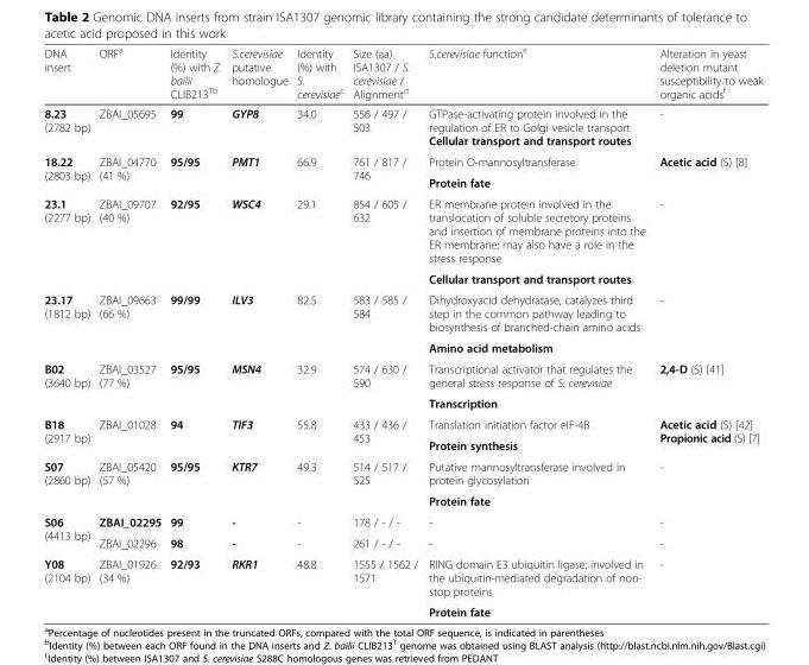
<table><thead><tr><td>DNA insert</td><td>ORF<sup>a</sup></td><td>Identity (%) with Z. bailii CLIB213<sup>Tb</sup></td><td>S.cerevisiae putative homologue</td><td>Identity (%) with S. cerevisiae<sup>c</sup></td><td>Size (aa) ISA1307 / S. cerevisiae / Alignment<sup>d</sup></td><td>S.cerevisiae function<sup>e</sup></td><td>Alteration in yeast deletion mutant susceptibility to weak organic acids<sup>f</sup></td></tr></thead><tbody><tr><td>8.23 (2782 bp)</td><td>ZBAI_05695</td><td>99</td><td>GYP8</td><td>34.0</td><td>556 / 497 / 503</td><td>GTPase-activating protein involved in the regulation of ER to Golgi vesicle transport Cellular transport and transport routes</td><td>-</td></tr><tr><td rowspan="2">18.22 (2803 bp)</td><td rowspan="2">ZBAI_04770 (41 %)</td><td rowspan="2">95/95</td><td rowspan="2">PMT1</td><td rowspan="2">66.9</td><td rowspan="2">761 / 817 / 746</td><td>Protein O-mannosyltransferase</td><td rowspan="2">Acetic acid (S) [8]</td></tr><tr><td>Protein fate</td></tr><tr><td rowspan="2">23.1 (2277 bp)</td><td rowspan="2">ZBAI_09707 (40 %)</td><td rowspan="2">92/95</td><td rowspan="2">WSC4</td><td rowspan="2">29.1</td><td rowspan="2">854 / 605 / 632</td><td>ER membrane protein involved in the translocation of soluble secretory proteins and insertion of membrane proteins into the ER membrane; may also have a role in the stress response</td><td rowspan="2">-</td></tr><tr><td>Cellular transport and transport routes</td></tr><tr><td rowspan="2">23.17 (1812 bp)</td><td rowspan="2">ZBAI_09663 (66 %)</td><td rowspan="2">99/99</td><td rowspan="2">ILV3</td><td rowspan="2">82.5</td><td rowspan="2">583 / 585 / 584</td><td>Dihydroxyacid dehydratase, catalyzes third step in the common pathway leading to biosynthesis of branched-chain amino acids</td><td rowspan="2">-</td></tr><tr><td>Amino acid metabolism</td></tr><tr><td rowspan="2">B02 (3640 bp)</td><td rowspan="2">ZBAI_03527 (77 %)</td><td rowspan="2">95/95</td><td rowspan="2">MSN4</td><td rowspan="2">32.9</td><td rowspan="2">574 / 630 / 590</td><td>Transcriptional activator that regulates the general stress response of S. cerevisiae</td><td rowspan="2">2,4-D (S) [41]</td></tr><tr><td>Transcription</td></tr><tr><td rowspan="2">B18 (2917 bp)</td><td rowspan="2">ZBAI_01028</td><td rowspan="2">94</td><td rowspan="2">TIF3</td><td rowspan="2">55.8</td><td rowspan="2">433 / 436 / 453</td><td>Translation initiation factor eIF-4B</td><td rowspan="2">Acetic acid (S) [42] Propionic acid (S) [7]</td></tr><tr><td>Protein synthesis</td></tr><tr><td rowspan="2">S07 (2860 bp)</td><td rowspan="2">ZBAI_05420 (57 %)</td><td rowspan="2">95/95</td><td rowspan="2">KTR7</td><td rowspan="2">49.3</td><td rowspan="2">514 / 517 / 525</td><td>Putative mannosyltransferase involved in protein glycosylation</td><td rowspan="2">-</td></tr><tr><td>Protein fate</td></tr><tr><td rowspan="2">S06 (4413 bp)</td><td>ZBAI_02295</td><td>99</td><td>-</td><td>-</td><td>178 / - / -</td><td>-</td><td>-</td></tr><tr><td>ZBAI_02296</td><td>98</td><td>-</td><td>-</td><td>261 / - / -</td><td>-</td><td>-</td></tr><tr><td rowspan="2">Y08 (2104 bp)</td><td rowspan="2">ZBAI_01926 (34 %)</td><td rowspan="2">92/93</td><td rowspan="2">RKR1</td><td rowspan="2">48.8</td><td rowspan="2">1555 / 1562 / 1571</td><td>RING domain E3 ubiquitin ligase; involved in the ubiquitin-mediated degradation of non- stop proteins</td><td rowspan="2">-</td></tr><tr><td>Protein fate</td></tr></tbody></table>